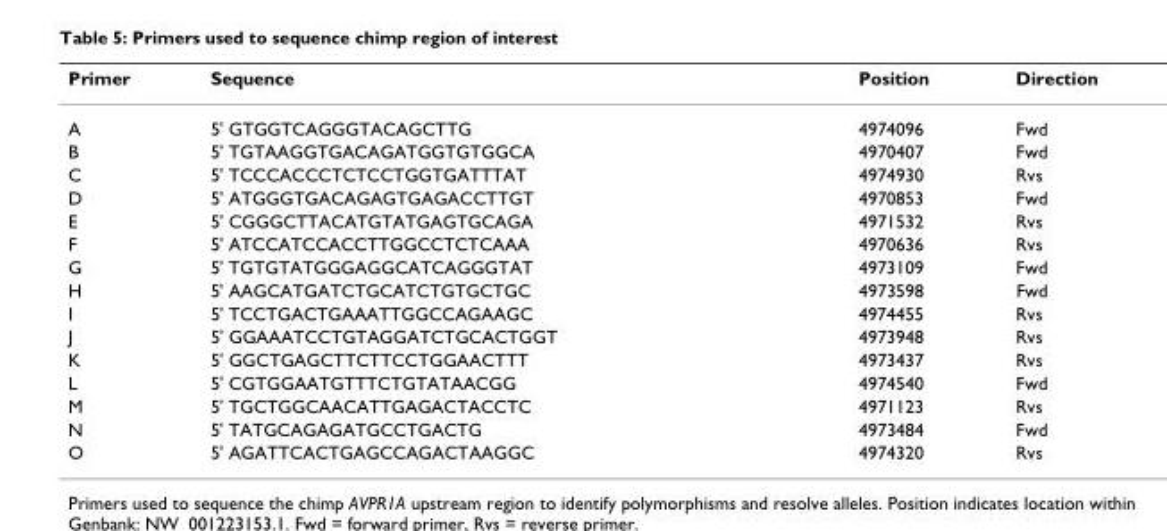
<table><thead><tr><td>Primer</td><td>Sequence</td><td>Position</td><td>Direction</td></tr></thead><tbody><tr><td>A</td><td>5&#x27; GTGGTCAGGGTACAGCTTG</td><td>4974096</td><td>Fwd</td></tr><tr><td>B</td><td>5&#x27; TGTAAGGTGACAGATGGTGTGGCA</td><td>4970407</td><td>Fwd</td></tr><tr><td>C</td><td>5&#x27; TCCCACCCTCTCCTGGTGATTTAT</td><td>4974930</td><td>Rvs</td></tr><tr><td>D</td><td>5&#x27; ATGGGTGACAGAGTGAGACCTTGT</td><td>4970853</td><td>Fwd</td></tr><tr><td>E</td><td>5&#x27; CGGGCTTACATGTATGAGTGCAGA</td><td>4971532</td><td>Rvs</td></tr><tr><td>F</td><td>5&#x27; ATCCATCCACCTTGGCCTCTCAAA</td><td>4970636</td><td>Rvs</td></tr><tr><td>G</td><td>5&#x27; TGTGTATGGGAGGCATCAGGGTAT</td><td>4973109</td><td>Fwd</td></tr><tr><td>H</td><td>5&#x27; AAGCATGATCTGCATCTGTGCTGC</td><td>4973598</td><td>Fwd</td></tr><tr><td>I</td><td>5&#x27; TCCTGACTGAAATTGGCCAGAAGC</td><td>4974455</td><td>Rvs</td></tr><tr><td>J</td><td>5&#x27; GGAAATCCTGTAGGATCTGCACTGGT</td><td>4973948</td><td>Rvs</td></tr><tr><td>K</td><td>5&#x27; GGCTGAGCTTCTTCCTGGAACTTT</td><td>4973437</td><td>Rvs</td></tr><tr><td>L</td><td>5&#x27; CGTGGAATGTTTCTGTATAACGG</td><td>4974540</td><td>Fwd</td></tr><tr><td>M</td><td>5&#x27; TGCTGGCAACATTGAGACTACCTC</td><td>4971123</td><td>Rvs</td></tr><tr><td>N</td><td>5&#x27; TATGCAGAGATGCCTGACTG</td><td>4973484</td><td>Fwd</td></tr><tr><td>O</td><td>5&#x27; AGATTCACTGAGCCAGACTAAGGC</td><td>4974320</td><td>Rvs</td></tr></tbody></table>